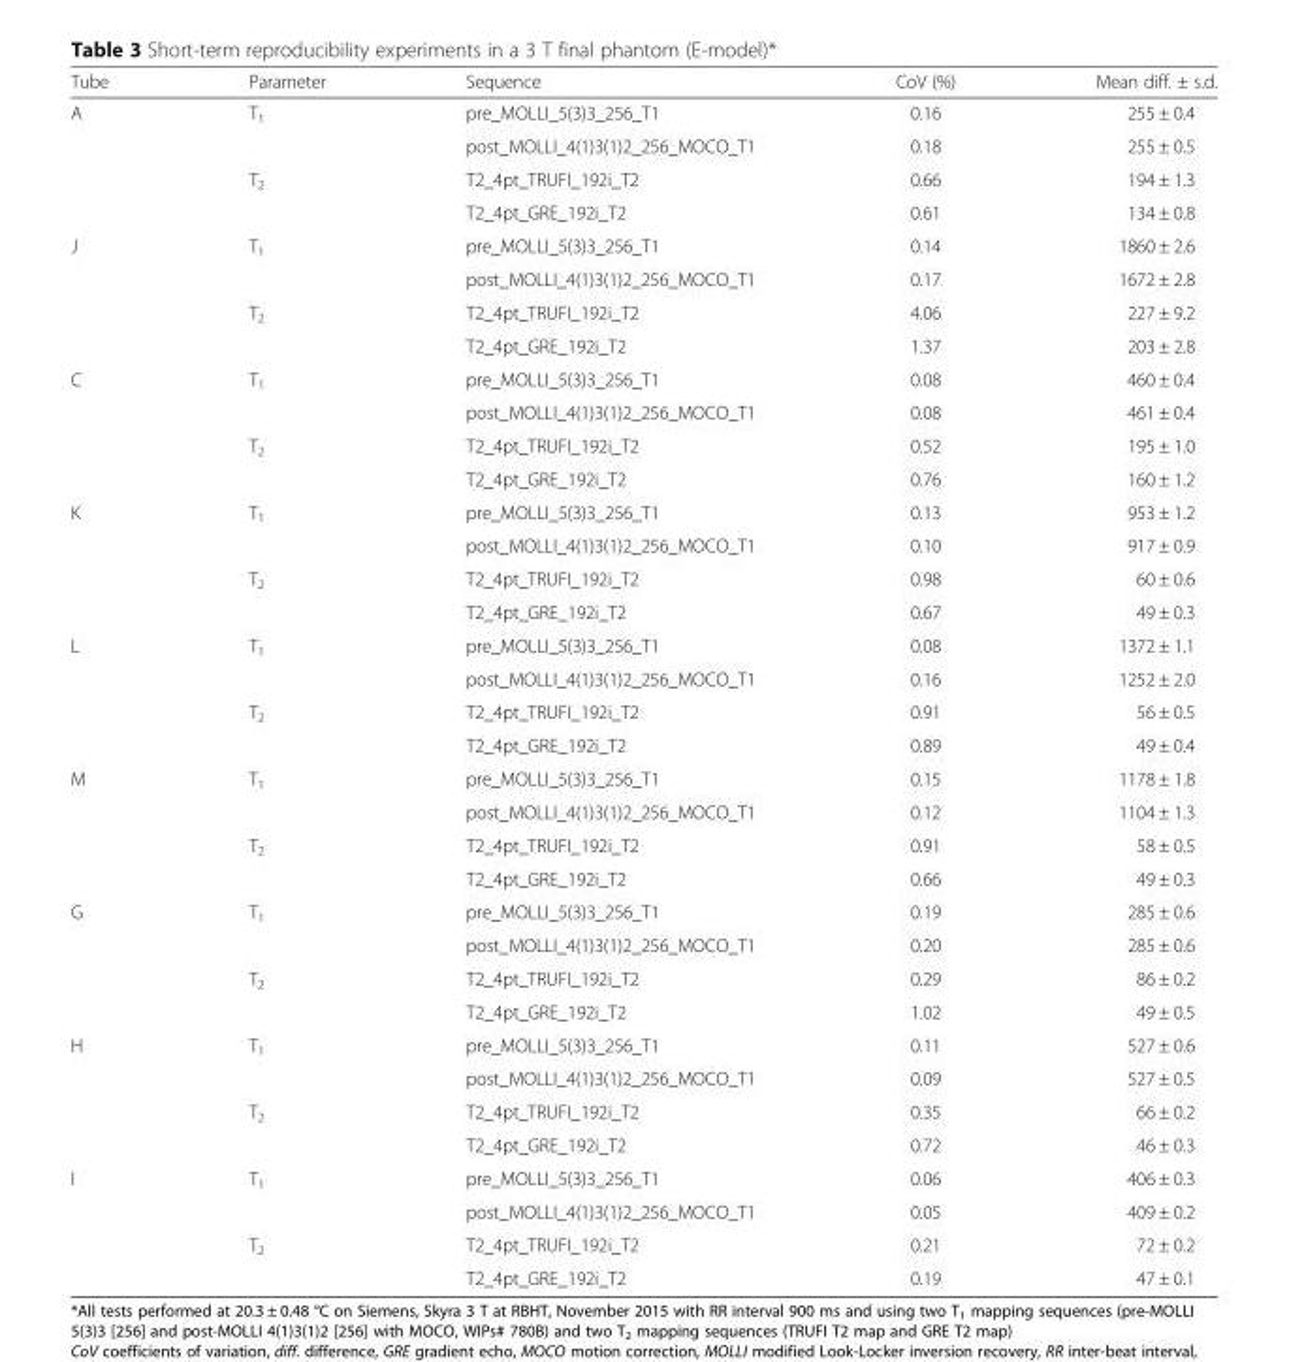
<table><thead><tr><td>Tube</td><td>Parameter</td><td>Sequence</td><td>CoV (%)</td><td>Mean diff. ± s.d.</td></tr></thead><tbody><tr><td rowspan="4">A</td><td rowspan="2">T<sub>1</sub></td><td>pre_MOLLI_5(3)3_256_T1</td><td>0.16</td><td>255 ± 0.4</td></tr><tr><td>post_MOLLI_4(1)3(1)2_256_MOCO_T1</td><td>0.18</td><td>255 ± 0.5</td></tr><tr><td rowspan="2">T<sub>2</sub></td><td>T2_4pt_TRUFI_192i_T2</td><td>0.66</td><td>194 ± 1.3</td></tr><tr><td>T2_4pt_GRE_192i_T2</td><td>0.61</td><td>134 ± 0.8</td></tr><tr><td rowspan="4">J</td><td rowspan="2">T<sub>1</sub></td><td>pre_MOLLI_5(3)3_256_T1</td><td>0.14</td><td>1860 ± 2.6</td></tr><tr><td>post_MOLLI_4(1)3(1)2_256_MOCO_T1</td><td>0.17</td><td>1672 ± 2.8</td></tr><tr><td rowspan="2">T<sub>2</sub></td><td>T2_4pt_TRUFI_192i_T2</td><td>4.06</td><td>227 ± 9.2</td></tr><tr><td>T2_4pt_GRE_192i_T2</td><td>1.37</td><td>203 ± 2.8</td></tr><tr><td rowspan="4">C</td><td rowspan="2">T<sub>1</sub></td><td>pre_MOLLI_5(3)3_256_T1</td><td>0.08</td><td>460 ± 0.4</td></tr><tr><td>post_MOLLI_4(1)3(1)2_256_MOCO_T1</td><td>0.08</td><td>461 ± 0.4</td></tr><tr><td rowspan="2">T<sub>2</sub></td><td>T2_4pt_TRUFI_192i_T2</td><td>0.52</td><td>195 ± 1.0</td></tr><tr><td>T2_4pt_GRE_192i_T2</td><td>0.76</td><td>160 ± 1.2</td></tr><tr><td rowspan="4">K</td><td rowspan="2">T<sub>1</sub></td><td>pre_MOLLI_5(3)3_256_T1</td><td>0.13</td><td>953 ± 1.2</td></tr><tr><td>post_MOLLI_4(1)3(1)2_256_MOCO_T1</td><td>0.10</td><td>917 ± 0.9</td></tr><tr><td rowspan="2">T<sub>2</sub></td><td>T2_4pt_TRUFI_192i_T2</td><td>0.98</td><td>60 ± 0.6</td></tr><tr><td>T2_4pt_GRE_192i_T2</td><td>0.67</td><td>49 ± 0.3</td></tr><tr><td rowspan="4">L</td><td rowspan="2">T<sub>1</sub></td><td>pre_MOLLI_5(3)3_256_T1</td><td>0.08</td><td>1372 ± 1.1</td></tr><tr><td>post_MOLLI_4(1)3(1)2_256_MOCO_T1</td><td>0.16</td><td>1252 ± 2.0</td></tr><tr><td rowspan="2">T<sub>2</sub></td><td>T2_4pt_TRUFI_192i_T2</td><td>0.91</td><td>56 ± 0.5</td></tr><tr><td>T2_4pt_GRE_192i_T2</td><td>0.89</td><td>49 ± 0.4</td></tr><tr><td rowspan="4">M</td><td rowspan="2">T<sub>1</sub></td><td>pre_MOLLI_5(3)3_256_T1</td><td>0.15</td><td>1178 ± 1.8</td></tr><tr><td>post_MOLLI_4(1)3(1)2_256_MOCO_T1</td><td>0.12</td><td>1104 ± 1.3</td></tr><tr><td rowspan="2">T<sub>2</sub></td><td>T2_4pt_TRUFI_192i_T2</td><td>0.91</td><td>58 ± 0.5</td></tr><tr><td>T2_4pt_GRE_192i_T2</td><td>0.66</td><td>49 ± 0.3</td></tr><tr><td rowspan="4">G</td><td rowspan="2">T<sub>1</sub></td><td>pre_MOLLI_5(3)3_256_T1</td><td>0.19</td><td>285 ± 0.6</td></tr><tr><td>post_MOLLI_4(1)3(1)2_256_MOCO_T1</td><td>0.20</td><td>285 ± 0.6</td></tr><tr><td rowspan="2">T<sub>2</sub></td><td>T2_4pt_TRUFI_192i_T2</td><td>0.29</td><td>86 ± 0.2</td></tr><tr><td>T2_4pt_GRE_192i_T2</td><td>1.02</td><td>49 ± 0.5</td></tr><tr><td rowspan="4">H</td><td rowspan="2">T<sub>1</sub></td><td>pre_MOLLI_5(3)3_256_T1</td><td>0.11</td><td>527 ± 0.6</td></tr><tr><td>post_MOLLI_4(1)3(1)2_256_MOCO_T1</td><td>0.09</td><td>527 ± 0.5</td></tr><tr><td rowspan="2">T<sub>2</sub></td><td>T2_4pt_TRUFI_192i_T2</td><td>0.35</td><td>66 ± 0.2</td></tr><tr><td>T2_4pt_GRE_192i_T2</td><td>0.72</td><td>46 ± 0.3</td></tr><tr><td rowspan="4">I</td><td rowspan="2">T<sub>1</sub></td><td>pre_MOLLI_5(3)3_256_T1</td><td>0.06</td><td>406 ± 0.3</td></tr><tr><td>post_MOLLI_4(1)3(1)2_256_MOCO_T1</td><td>0.05</td><td>409 ± 0.2</td></tr><tr><td rowspan="2">T<sub>2</sub></td><td>T2_4pt_TRUFI_192i_T2</td><td>0.21</td><td>72 ± 0.2</td></tr><tr><td>T2_4pt_GRE_192i_T2</td><td>0.19</td><td>47 ± 0.1</td></tr></tbody></table>